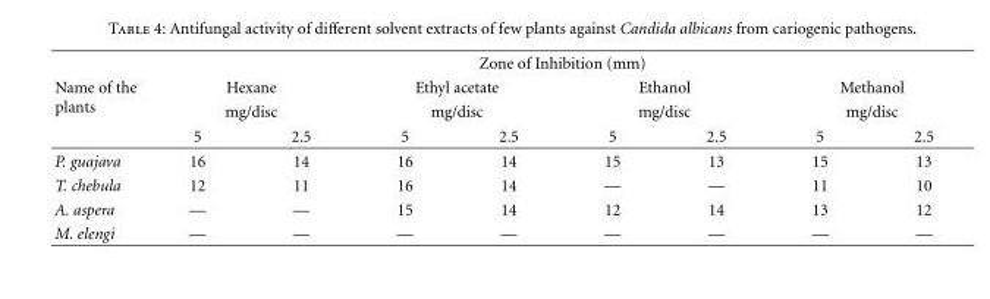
<table><thead><tr><td rowspan="4">Name of the plants</td><td colspan="8">Zone of Inhibition (mm)</td></tr><tr><td rowspan="2" colspan="2">Hexane mg/disc</td><td rowspan="2" colspan="2">Ethyl acetate mg/disc</td><td rowspan="2" colspan="2">Ethanol mg/disc</td><td rowspan="2" colspan="2">Methanol mg/disc</td></tr><tr></tr><tr><td>5</td><td>2.5</td><td>5</td><td>2.5</td><td>5</td><td>2.5</td><td>5</td><td>2.5</td></tr></thead><tbody><tr><td>P. guajava</td><td>16</td><td>14</td><td>16</td><td>14</td><td>15</td><td>13</td><td>15</td><td>13</td></tr><tr><td>T. chebula</td><td>12</td><td>11</td><td>16</td><td>14</td><td>—</td><td>—</td><td>11</td><td>10</td></tr><tr><td>A. aspera</td><td>—</td><td>—</td><td>15</td><td>14</td><td>12</td><td>14</td><td>13</td><td>12</td></tr><tr><td>M. elengi</td><td>—</td><td>—</td><td>—</td><td>—</td><td>—</td><td>—</td><td>—</td><td>—</td></tr></tbody></table>